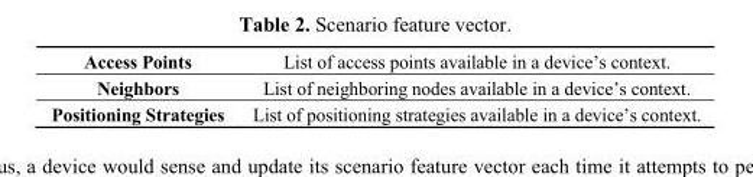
<table><tbody><tr><td>Access Points</td><td>List of access points available in a device’s context.</td></tr><tr><td>Neighbors</td><td>List of neighboring nodes available in a device’s context.</td></tr><tr><td>Positioning Strategies</td><td>List of positioning strategies available in a device’s context.</td></tr></tbody></table>